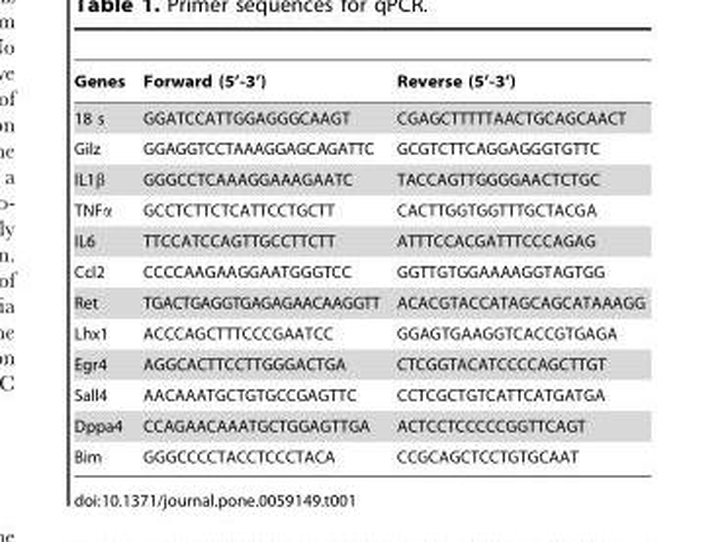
<table><thead><tr><td>Genes</td><td>Forward (5’-3’)</td><td>Reverse (5’-3’)</td></tr></thead><tbody><tr><td>18 s</td><td>GGATCCATTGGAGGGCAAGT</td><td>CGAGCTTTTTAACTGCAGCAACT</td></tr><tr><td>Gilz</td><td>GGAGGTCCTAAAGGAGCAGATTC</td><td>GCGTCTTCAGGAGGGTGTTC</td></tr><tr><td>IL1β</td><td>GGGCCTCAAAGGAAAGAATC</td><td>TACCAGTTGGGGAACTCTGC</td></tr><tr><td>TNFα</td><td>GCCTCTTCTCATTCCTGCTT</td><td>CACTTGGTGGTTTGCTACGA</td></tr><tr><td>IL6</td><td>TTCCATCCAGTTGCCTTCTT</td><td>ATTTCCACGATTTCCCAGAG</td></tr><tr><td>Ccl2</td><td>CCCCAAGAAGGAATGGGTCC</td><td>GGTTGTGGAAAAGGTAGTGG</td></tr><tr><td>Ret</td><td>TGACTGAGGTGAGAGAACAAGGTT</td><td>ACACGTACCATAGCAGCATAAAGG</td></tr><tr><td>Lhx1</td><td>ACCCAGCTTTCCCGAATCC</td><td>GGAGTGAAGGTCACCGTGAGA</td></tr><tr><td>Egr4</td><td>AGGCACTTCCTTGGGACTGA</td><td>CTCGGTACATCCCCAGCTTGT</td></tr><tr><td>Sall4</td><td>AACAAATGCTGTGCCGAGTTC</td><td>CCTCGCTGTCATTCATGATGA</td></tr><tr><td>Dppa4</td><td>CCAGAACAAATGCTGGAGTTGA</td><td>ACTCCTCCCCCGGTTCAGT</td></tr><tr><td>Bim</td><td>GGGCCCCTACCTCCCTACA</td><td>CCGCAGCTCCTGTGCAAT</td></tr></tbody></table>